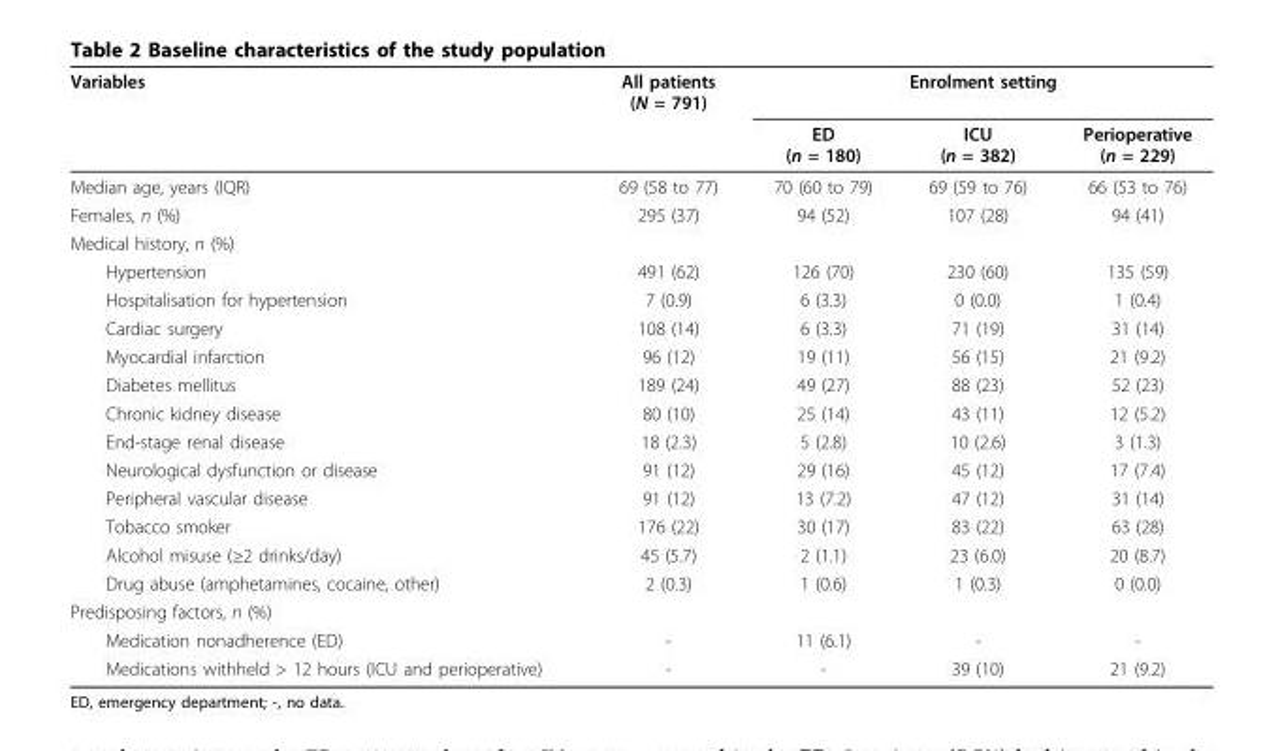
<table><thead><tr><td rowspan="2">Variables</td><td rowspan="2">All patients (N = 791)</td><td colspan="3">Enrolment setting</td></tr><tr><td>ED (n = 180)</td><td>ICU (n = 382)</td><td>Perioperative (n = 229)</td></tr></thead><tbody><tr><td>Median age, years (IQR)</td><td>69 (58 to 77)</td><td>70 (60 to 79)</td><td>69 (59 to 76)</td><td>66 (53 to 76)</td></tr><tr><td>Females, n (%)</td><td>295 (37)</td><td>94 (52)</td><td>107 (28)</td><td>94 (41)</td></tr><tr><td colspan="5">Medical history, n (%)</td></tr><tr><td>Hypertension</td><td>491 (62)</td><td>126 (70)</td><td>230 (60)</td><td>135 (59)</td></tr><tr><td>Hospitalisation for hypertension</td><td>7 (0.9)</td><td>6 (3.3)</td><td>0 (0.0)</td><td>1 (0.4)</td></tr><tr><td>Cardiac surgery</td><td>108 (14)</td><td>6 (3.3)</td><td>71 (19)</td><td>31 (14)</td></tr><tr><td>Myocardial infarction</td><td>96 (12)</td><td>19 (11)</td><td>56 (15)</td><td>21 (9.2)</td></tr><tr><td>Diabetes mellitus</td><td>189 (24)</td><td>49 (27)</td><td>88 (23)</td><td>52 (23)</td></tr><tr><td>Chronic kidney disease</td><td>80 (10)</td><td>25 (14)</td><td>43 (11)</td><td>12 (5.2)</td></tr><tr><td>End-stage renal disease</td><td>18 (2.3)</td><td>5 (2.8)</td><td>10 (2.6)</td><td>3 (1.3)</td></tr><tr><td>Neurological dysfunction or disease</td><td>91 (12)</td><td>29 (16)</td><td>45 (12)</td><td>17 (7.4)</td></tr><tr><td>Peripheral vascular disease</td><td>91 (12)</td><td>13 (7.2)</td><td>47 (12)</td><td>31 (14)</td></tr><tr><td>Tobacco smoker</td><td>176 (22)</td><td>30 (17)</td><td>83 (22)</td><td>63 (28)</td></tr><tr><td>Alcohol misuse (≥2 drinks/day)</td><td>45 (5.7)</td><td>2 (1.1)</td><td>23 (6.0)</td><td>20 (8.7)</td></tr><tr><td>Drug abuse (amphetamines, cocaine, other)</td><td>2 (0.3)</td><td>1 (0.6)</td><td>1 (0.3)</td><td>0 (0.0)</td></tr><tr><td colspan="5">Predisposing factors, n (%)</td></tr><tr><td>Medication nonadherence (ED)</td><td>-</td><td>11 (6.1)</td><td>-</td><td>-</td></tr><tr><td>Medications withheld &gt; 12 hours (ICU and perioperative)</td><td>-</td><td>-</td><td>39 (10)</td><td>21 (9.2)</td></tr></tbody></table>